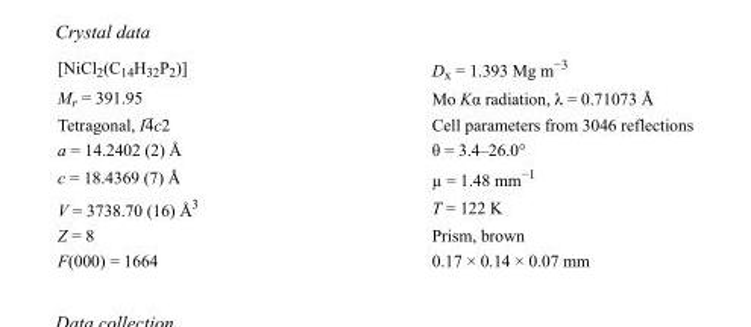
<table><tbody><tr><td>[NiCl<sub>2</sub>(C<sub>14</sub>H<sub>32</sub>P<sub>2</sub>)]</td><td>D<sub>x</sub> = 1.393 Mg m<sup>−3</sup></td></tr><tr><td>M<sub>r</sub> = 391.95</td><td>Mo Kα radiation, λ = 0.71073 Å</td></tr><tr><td>Tetragonal, I4c2</td><td>Cell parameters from 3046 reflections</td></tr><tr><td>a = 14.2402 (2) Å</td><td>θ = 3.4–26.0°</td></tr><tr><td>c = 18.4369 (7) Å</td><td>µ = 1.48 mm<sup>−1</sup></td></tr><tr><td>V = 3738.70 (16) Å<sup>3</sup></td><td>T = 122 K</td></tr><tr><td>Z = 8</td><td>Prism, brown</td></tr><tr><td>F(000) = 1664</td><td>0.17 × 0.14 × 0.07 mm</td></tr></tbody></table>